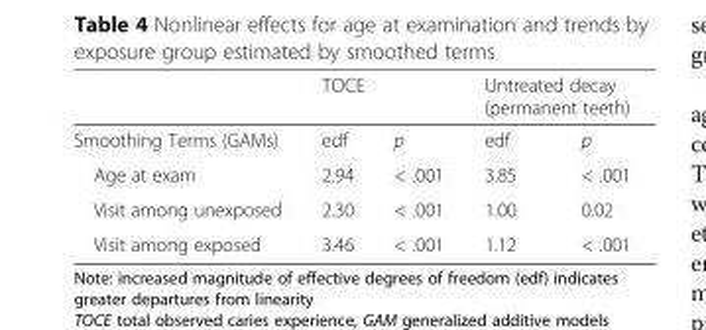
<table><thead><tr><td rowspan="2">Smoothing Terms (GAMs)</td><td colspan="2">TOCE</td><td colspan="2">Untreated decay (permanent teeth)</td></tr><tr><td>edf</td><td>p</td><td>edf</td><td>p</td></tr></thead><tbody><tr><td>Age at exam</td><td>2.94</td><td>&lt; .001</td><td>3.85</td><td>&lt; .001</td></tr><tr><td>Visit among unexposed</td><td>2.30</td><td>&lt; .001</td><td>1.00</td><td>0.02</td></tr><tr><td>Visit among exposed</td><td>3.46</td><td>&lt; .001</td><td>1.12</td><td>&lt; .001</td></tr></tbody></table>